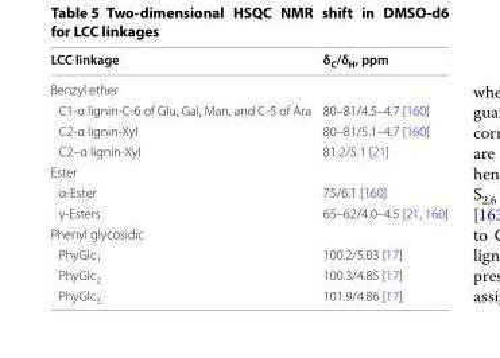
<table><thead><tr><td>LCC linkage</td><td>δ<sub>C</sub>/δ<sub>H</sub>, ppm</td></tr></thead><tbody><tr><td colspan="2">Benzyl ether</td></tr><tr><td>C1-α lignin-C-6 of Glu, Gal, Man, and C-5 of Ara</td><td>80–81/4.5–4.7 [160]</td></tr><tr><td>C2-α lignin-Xyl</td><td>80–81/5.1–4.7 [160]</td></tr><tr><td>C2–α lignin-Xyl</td><td>81.2/5.1 [21]</td></tr><tr><td colspan="2">Ester</td></tr><tr><td>α-Ester</td><td>75/6.1 [160]</td></tr><tr><td>γ-Esters</td><td>65–62/4.0–4.5 [21, 160]</td></tr><tr><td colspan="2">Phenyl glycosidic</td></tr><tr><td>PhyGlc<sub>1</sub></td><td>100.2/5.03 [17]</td></tr><tr><td>PhyGlc<sub>2</sub></td><td>100.3/4.85 [17]</td></tr><tr><td>PhyGlc<sub>3</sub></td><td>101.9/4.86 [17]</td></tr></tbody></table>